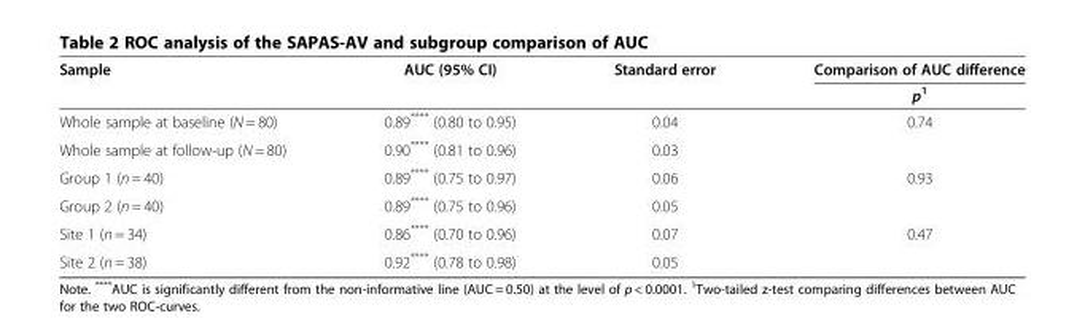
<table><thead><tr><td rowspan="2">Sample</td><td rowspan="2">AUC (95% CI)</td><td rowspan="2">Standard error</td><td rowspan="2">Comparison of AUC difference p<sup>1</sup></td></tr><tr></tr></thead><tbody><tr><td>Whole sample at baseline (N = 80)</td><td>0.89**** (0.80 to 0.95)</td><td>0.04</td><td rowspan="2">0.74</td></tr><tr><td>Whole sample at follow-up (N = 80)</td><td>0.90**** (0.81 to 0.96)</td><td>0.03</td></tr><tr><td>Group 1 (n = 40)</td><td>0.89**** (0.75 to 0.97)</td><td>0.06</td><td rowspan="2">0.93</td></tr><tr><td>Group 2 (n = 40)</td><td>0.89**** (0.75 to 0.96)</td><td>0.05</td></tr><tr><td>Site 1 (n = 34)</td><td>0.86**** (0.70 to 0.96)</td><td>0.07</td><td rowspan="2">0.47</td></tr><tr><td>Site 2 (n = 38)</td><td>0.92**** (0.78 to 0.98)</td><td>0.05</td></tr></tbody></table>